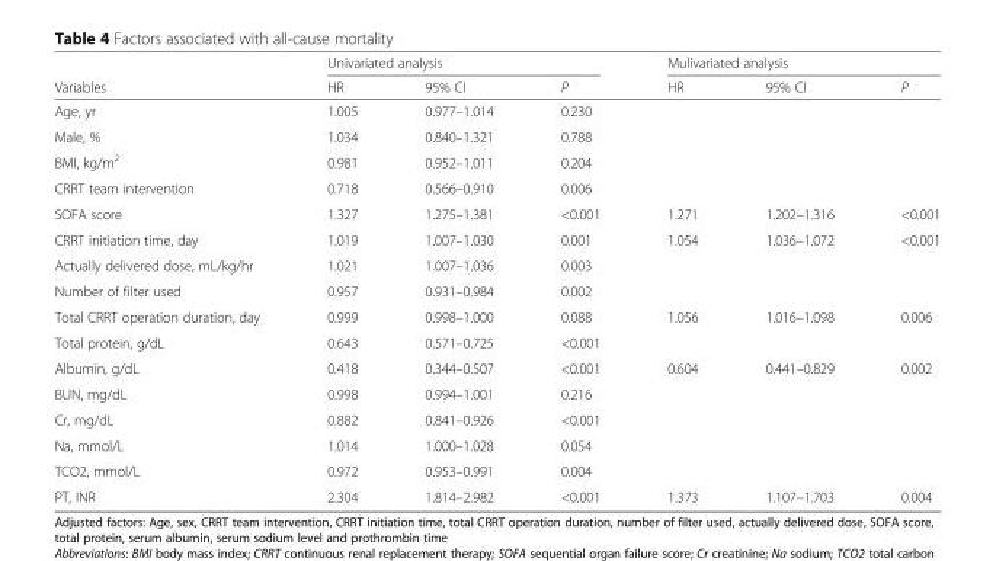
<table><thead><tr><td rowspan="2">Variables</td><td colspan="3">Univariated analysis</td><td colspan="3">Mulivariated analysis</td></tr><tr><td>HR</td><td>95% CI</td><td>P</td><td>HR</td><td>95% CI</td><td>P</td></tr></thead><tbody><tr><td>Age, yr</td><td>1.005</td><td>0.977–1.014</td><td>0.230</td><td></td><td></td><td></td></tr><tr><td>Male, %</td><td>1.034</td><td>0.840–1.321</td><td>0.788</td><td></td><td></td><td></td></tr><tr><td>BMI, kg/m<sup>2</sup></td><td>0.981</td><td>0.952–1.011</td><td>0.204</td><td></td><td></td><td></td></tr><tr><td>CRRT team intervention</td><td>0.718</td><td>0.566–0.910</td><td>0.006</td><td></td><td></td><td></td></tr><tr><td>SOFA score</td><td>1.327</td><td>1.275–1.381</td><td>&lt;0.001</td><td>1.271</td><td>1.202–1.316</td><td>&lt;0.001</td></tr><tr><td>CRRT initiation time, day</td><td>1.019</td><td>1.007–1.030</td><td>0.001</td><td>1.054</td><td>1.036–1.072</td><td>&lt;0.001</td></tr><tr><td>Actually delivered dose, mL/kg/hr</td><td>1.021</td><td>1.007–1.036</td><td>0.003</td><td></td><td></td><td></td></tr><tr><td>Number of filter used</td><td>0.957</td><td>0.931–0.984</td><td>0.002</td><td></td><td></td><td></td></tr><tr><td>Total CRRT operation duration, day</td><td>0.999</td><td>0.998–1.000</td><td>0.088</td><td>1.056</td><td>1.016–1.098</td><td>0.006</td></tr><tr><td>Total protein, g/dL</td><td>0.643</td><td>0.571–0.725</td><td>&lt;0.001</td><td></td><td></td><td></td></tr><tr><td>Albumin, g/dL</td><td>0.418</td><td>0.344–0.507</td><td>&lt;0.001</td><td>0.604</td><td>0.441–0.829</td><td>0.002</td></tr><tr><td>BUN, mg/dL</td><td>0.998</td><td>0.994–1.001</td><td>0.216</td><td></td><td></td><td></td></tr><tr><td>Cr, mg/dL</td><td>0.882</td><td>0.841–0.926</td><td>&lt;0.001</td><td></td><td></td><td></td></tr><tr><td>Na, mmol/L</td><td>1.014</td><td>1.000–1.028</td><td>0.054</td><td></td><td></td><td></td></tr><tr><td>TCO2, mmol/L</td><td>0.972</td><td>0.953–0.991</td><td>0.004</td><td></td><td></td><td></td></tr><tr><td>PT, INR</td><td>2.304</td><td>1.814–2.982</td><td>&lt;0.001</td><td>1.373</td><td>1.107–1.703</td><td>0.004</td></tr></tbody></table>